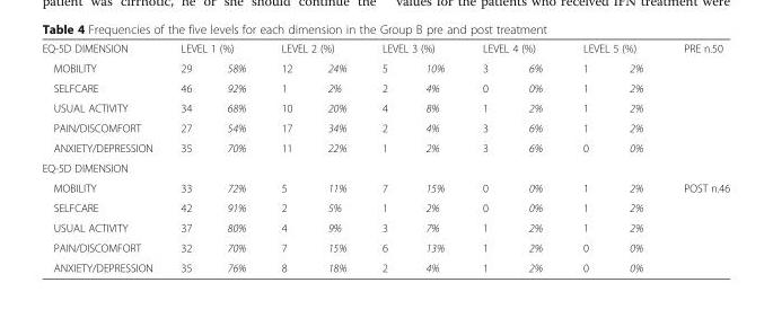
<table><tbody><tr><td>EQ-5D DIMENSION</td><td colspan="2">LEVEL 1 (%)</td><td colspan="2">LEVEL 2 (%)</td><td colspan="2">LEVEL 3 (%)</td><td colspan="2">LEVEL 4 (%)</td><td colspan="2">LEVEL 5 (%)</td><td>PRE n.50</td></tr><tr><td>MOBILITY</td><td>29</td><td>58%</td><td>12</td><td>24%</td><td>5</td><td>10%</td><td>3</td><td>6%</td><td>1</td><td>2%</td><td rowspan="5"></td></tr><tr><td>SELFCARE</td><td>46</td><td>92%</td><td>1</td><td>2%</td><td>2</td><td>4%</td><td>0</td><td>0%</td><td>1</td><td>2%</td></tr><tr><td>USUAL ACTIVITY</td><td>34</td><td>68%</td><td>10</td><td>20%</td><td>4</td><td>8%</td><td>1</td><td>2%</td><td>1</td><td>2%</td></tr><tr><td>PAIN/DISCOMFORT</td><td>27</td><td>54%</td><td>17</td><td>34%</td><td>2</td><td>4%</td><td>3</td><td>6%</td><td>1</td><td>2%</td></tr><tr><td>ANXIETY/DEPRESSION</td><td>35</td><td>70%</td><td>11</td><td>22%</td><td>1</td><td>2%</td><td>3</td><td>6%</td><td>0</td><td>0%</td></tr><tr><td colspan="12">EQ-5D DIMENSION</td></tr><tr><td>MOBILITY</td><td>33</td><td>72%</td><td>5</td><td>11%</td><td>7</td><td>15%</td><td>0</td><td>0%</td><td>1</td><td>2%</td><td rowspan="5">POST n.46</td></tr><tr><td>SELFCARE</td><td>42</td><td>91%</td><td>2</td><td>5%</td><td>1</td><td>2%</td><td>0</td><td>0%</td><td>1</td><td>2%</td></tr><tr><td>USUAL ACTIVITY</td><td>37</td><td>80%</td><td>4</td><td>9%</td><td>3</td><td>7%</td><td>1</td><td>2%</td><td>1</td><td>2%</td></tr><tr><td>PAIN/DISCOMFORT</td><td>32</td><td>70%</td><td>7</td><td>15%</td><td>6</td><td>13%</td><td>1</td><td>2%</td><td>0</td><td>0%</td></tr><tr><td>ANXIETY/DEPRESSION</td><td>35</td><td>76%</td><td>8</td><td>18%</td><td>2</td><td>4%</td><td>1</td><td>2%</td><td>0</td><td>0%</td></tr></tbody></table>